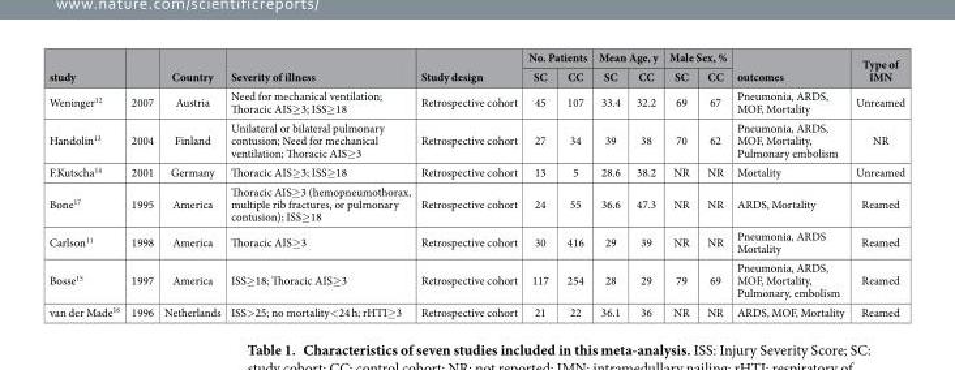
<table><thead><tr><td rowspan="2">study</td><td rowspan="2"></td><td rowspan="2">Country</td><td rowspan="2">Severity of illness</td><td rowspan="2">Study design</td><td colspan="2">No. Patients</td><td colspan="2">Mean Age, y</td><td colspan="2">Male Sex, %</td><td rowspan="2">outcomes</td><td rowspan="2">Type of IMN</td></tr><tr><td>SC</td><td>CC</td><td>SC</td><td>CC</td><td>SC</td><td>CC</td></tr></thead><tbody><tr><td>Weninger<sup>12</sup></td><td>2007</td><td>Austria</td><td>Need for mechanical ventilation; Thoracic AIS≥ 3; ISS≥ 18</td><td>Retrospective cohort</td><td>45</td><td>107</td><td>33.4</td><td>32.2</td><td>69</td><td>67</td><td>Pneumonia, ARDS, MOF, Mortality</td><td>Unreamed</td></tr><tr><td>Handolin<sup>13</sup></td><td>2004</td><td>Finland</td><td>Unilateral or bilateral pulmonary contusion; Need for mechanical ventilation; Thoracic AIS≥ 3</td><td>Retrospective cohort</td><td>27</td><td>34</td><td>39</td><td>38</td><td>70</td><td>62</td><td>Pneumonia, ARDS, MOF, Mortality, Pulmonary embolism</td><td>NR</td></tr><tr><td>F.Kutscha<sup>14</sup></td><td>2001</td><td>Germany</td><td>Thoracic AIS≥ 3; ISS≥ 18</td><td>Retrospective cohort</td><td>13</td><td>5</td><td>28.6</td><td>38.2</td><td>NR</td><td>NR</td><td>Mortality</td><td>Unreamed</td></tr><tr><td>Bone<sup>17</sup></td><td>1995</td><td>America</td><td>Thoracic AIS≥ 3 (hemopneumothorax, multiple rib fractures, or pulmonary contusion); ISS≥ 18</td><td>Retrospective cohort</td><td>24</td><td>55</td><td>36.6</td><td>47.3</td><td>NR</td><td>NR</td><td>ARDS, Mortality</td><td>Reamed</td></tr><tr><td>Carlson<sup>11</sup></td><td>1998</td><td>America</td><td>Thoracic AIS≥ 3</td><td>Retrospective cohort</td><td>30</td><td>416</td><td>29</td><td>39</td><td>NR</td><td>NR</td><td>Pneumonia, ARDS Mortality</td><td>Reamed</td></tr><tr><td>Bosse<sup>15</sup></td><td>1997</td><td>America</td><td>ISS≥ 18; Thoracic AIS≥ 3</td><td>Retrospective cohort</td><td>117</td><td>254</td><td>28</td><td>29</td><td>79</td><td>69</td><td>Pneumonia, ARDS, MOF, Mortality, Pulmonary, embolism</td><td>Reamed</td></tr><tr><td>van der Made<sup>16</sup></td><td>1996</td><td>Netherlands</td><td>ISS&gt; 25; no mortality&lt; 24 h; rHTI≥ 3</td><td>Retrospective cohort</td><td>21</td><td>22</td><td>36.1</td><td>36</td><td>NR</td><td>NR</td><td>ARDS, MOF, Mortality</td><td>Reamed</td></tr></tbody></table>